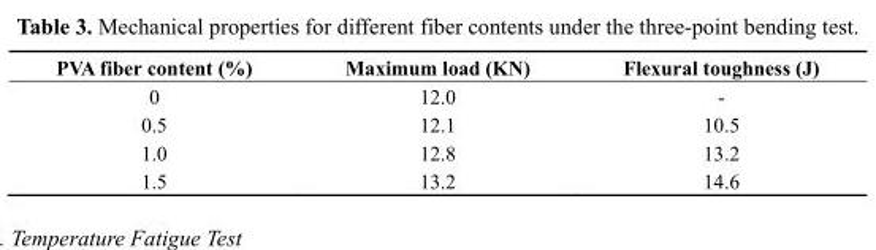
<table><thead><tr><td>PVA fiber content (%)</td><td>Maximum load (KN)</td><td>Flexural toughness (J)</td></tr></thead><tbody><tr><td>0</td><td>12.0</td><td>-</td></tr><tr><td>0.5</td><td>12.1</td><td>10.5</td></tr><tr><td>1.0</td><td>12.8</td><td>13.2</td></tr><tr><td>1.5</td><td>13.2</td><td>14.6</td></tr></tbody></table>